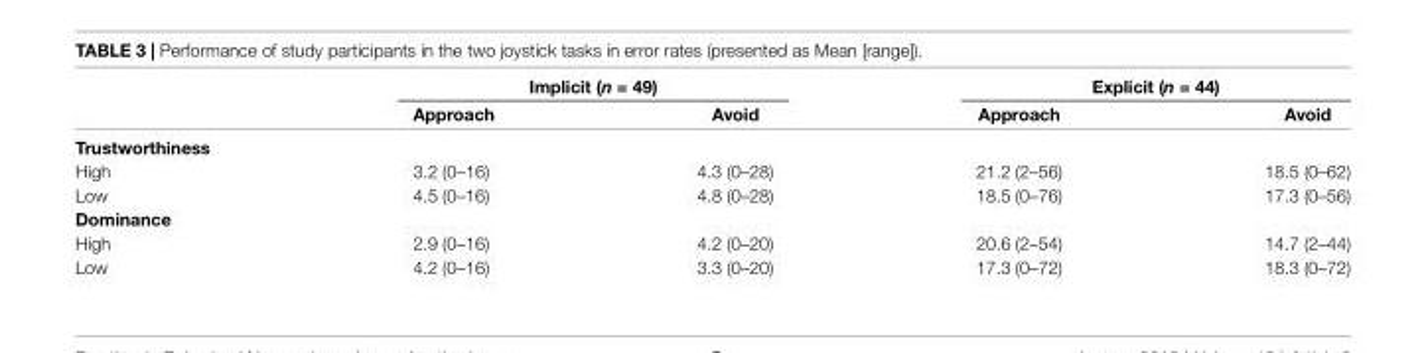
<table><thead><tr><td rowspan="2"></td><td colspan="2">Implicit (n = 49)</td><td colspan="2">Explicit (n = 44)</td></tr><tr><td>Approach</td><td>Avoid</td><td>Approach</td><td>Avoid</td></tr></thead><tbody><tr><td colspan="5">Trustworthiness</td></tr><tr><td>High</td><td>3.2 (0–16)</td><td>4.3 (0–28)</td><td>21.2 (2–56)</td><td>18.5 (0–62)</td></tr><tr><td>Low</td><td>4.5 (0–16)</td><td>4.8 (0–28)</td><td>18.5 (0–76)</td><td>17.3 (0–56)</td></tr><tr><td colspan="5">Dominance</td></tr><tr><td>High</td><td>2.9 (0–16)</td><td>4.2 (0–20)</td><td>20.6 (2–54)</td><td>14.7 (2–44)</td></tr><tr><td>Low</td><td>4.2 (0–16)</td><td>3.3 (0–20)</td><td>17.3 (0–72)</td><td>18.3 (0–72)</td></tr></tbody></table>